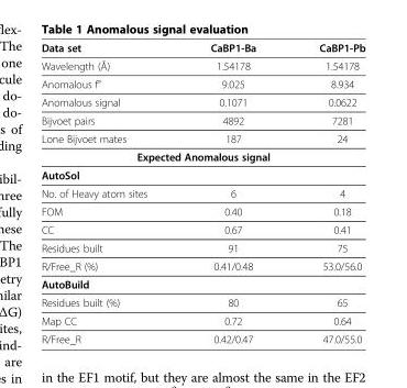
<table><thead><tr><td>Data set</td><td>CaBP1-Ba</td><td>CaBP1-Pb</td></tr></thead><tbody><tr><td>Wavelength (Å)</td><td>1.54178</td><td>1.54178</td></tr><tr><td>Anomalous f”</td><td>9.025</td><td>8.934</td></tr><tr><td>Anomalous signal</td><td>0.1071</td><td>0.0622</td></tr><tr><td>Bijvoet pairs</td><td>4892</td><td>7281</td></tr><tr><td>Lone Bijvoet mates</td><td>187</td><td>24</td></tr><tr><td colspan="3">Expected Anomalous signal</td></tr><tr><td colspan="3">AutoSol</td></tr><tr><td>No. of Heavy atom sites</td><td>6</td><td>4</td></tr><tr><td>FOM</td><td>0.40</td><td>0.18</td></tr><tr><td>CC</td><td>0.67</td><td>0.41</td></tr><tr><td>Residues built</td><td>91</td><td>75</td></tr><tr><td>R/Free_R (%)</td><td>0.41/0.48</td><td>53.0/56.0</td></tr><tr><td colspan="3">AutoBuild</td></tr><tr><td>Residues built (%)</td><td>80</td><td>65</td></tr><tr><td>Map CC</td><td>0.72</td><td>0.64</td></tr><tr><td>R/Free_R</td><td>0.42/0.47</td><td>47.0/55.0</td></tr></tbody></table>